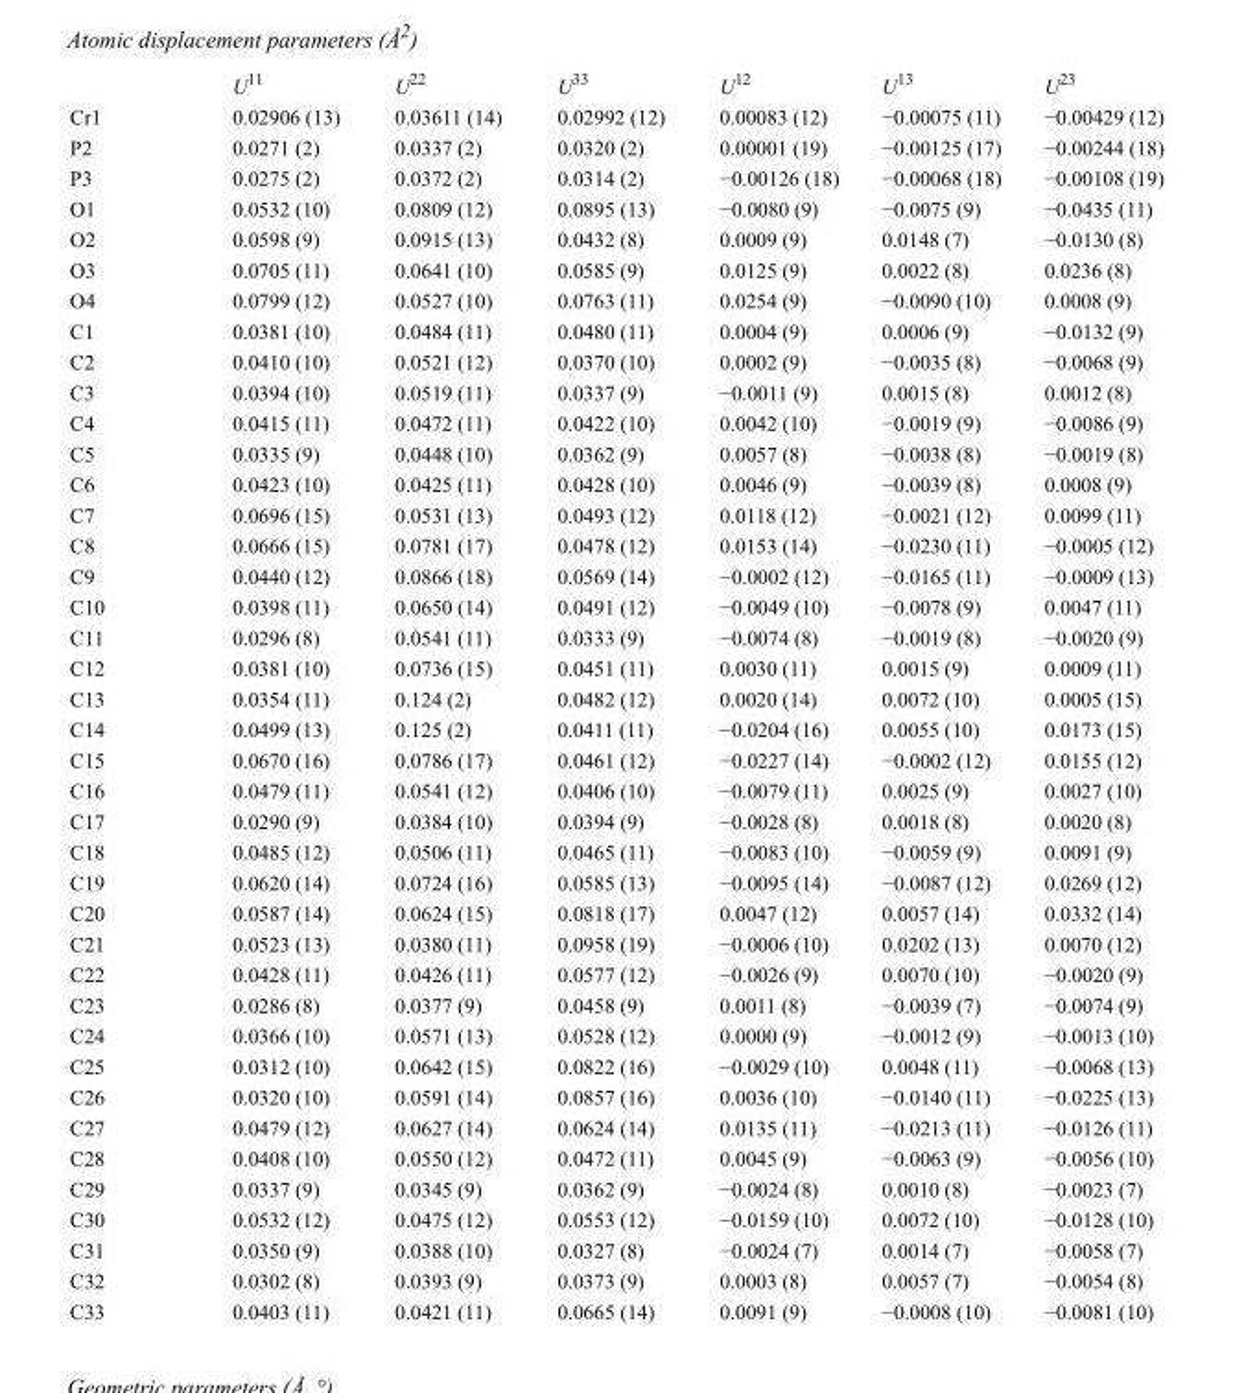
<table><thead><tr><td></td><td>U<sup>11</sup></td><td>U<sup>22</sup></td><td>U<sup>33</sup></td><td>U<sup>12</sup></td><td>U<sup>13</sup></td><td>U<sup>23</sup></td></tr></thead><tbody><tr><td>Cr1</td><td>0.02906 (13)</td><td>0.03611 (14)</td><td>0.02992 (12)</td><td>0.00083 (12)</td><td>−0.00075 (11)</td><td>−0.00429 (12)</td></tr><tr><td>P2</td><td>0.0271 (2)</td><td>0.0337 (2)</td><td>0.0320 (2)</td><td>0.00001 (19)</td><td>−0.00125 (17)</td><td>−0.00244 (18)</td></tr><tr><td>P3</td><td>0.0275 (2)</td><td>0.0372 (2)</td><td>0.0314 (2)</td><td>−0.00126 (18)</td><td>−0.00068 (18)</td><td>−0.00108 (19)</td></tr><tr><td>O1</td><td>0.0532 (10)</td><td>0.0809 (12)</td><td>0.0895 (13)</td><td>−0.0080 (9)</td><td>−0.0075 (9)</td><td>−0.0435 (11)</td></tr><tr><td>O2</td><td>0.0598 (9)</td><td>0.0915 (13)</td><td>0.0432 (8)</td><td>0.0009 (9)</td><td>0.0148 (7)</td><td>−0.0130 (8)</td></tr><tr><td>O3</td><td>0.0705 (11)</td><td>0.0641 (10)</td><td>0.0585 (9)</td><td>0.0125 (9)</td><td>0.0022 (8)</td><td>0.0236 (8)</td></tr><tr><td>O4</td><td>0.0799 (12)</td><td>0.0527 (10)</td><td>0.0763 (11)</td><td>0.0254 (9)</td><td>−0.0090 (10)</td><td>0.0008 (9)</td></tr><tr><td>C1</td><td>0.0381 (10)</td><td>0.0484 (11)</td><td>0.0480 (11)</td><td>0.0004 (9)</td><td>0.0006 (9)</td><td>−0.0132 (9)</td></tr><tr><td>C2</td><td>0.0410 (10)</td><td>0.0521 (12)</td><td>0.0370 (10)</td><td>0.0002 (9)</td><td>−0.0035 (8)</td><td>−0.0068 (9)</td></tr><tr><td>C3</td><td>0.0394 (10)</td><td>0.0519 (11)</td><td>0.0337 (9)</td><td>−0.0011 (9)</td><td>0.0015 (8)</td><td>0.0012 (8)</td></tr><tr><td>C4</td><td>0.0415 (11)</td><td>0.0472 (11)</td><td>0.0422 (10)</td><td>0.0042 (10)</td><td>−0.0019 (9)</td><td>−0.0086 (9)</td></tr><tr><td>C5</td><td>0.0335 (9)</td><td>0.0448 (10)</td><td>0.0362 (9)</td><td>0.0057 (8)</td><td>−0.0038 (8)</td><td>−0.0019 (8)</td></tr><tr><td>C6</td><td>0.0423 (10)</td><td>0.0425 (11)</td><td>0.0428 (10)</td><td>0.0046 (9)</td><td>−0.0039 (8)</td><td>0.0008 (9)</td></tr><tr><td>C7</td><td>0.0696 (15)</td><td>0.0531 (13)</td><td>0.0493 (12)</td><td>0.0118 (12)</td><td>−0.0021 (12)</td><td>0.0099 (11)</td></tr><tr><td>C8</td><td>0.0666 (15)</td><td>0.0781 (17)</td><td>0.0478 (12)</td><td>0.0153 (14)</td><td>−0.0230 (11)</td><td>−0.0005 (12)</td></tr><tr><td>C9</td><td>0.0440 (12)</td><td>0.0866 (18)</td><td>0.0569 (14)</td><td>−0.0002 (12)</td><td>−0.0165 (11)</td><td>−0.0009 (13)</td></tr><tr><td>C10</td><td>0.0398 (11)</td><td>0.0650 (14)</td><td>0.0491 (12)</td><td>−0.0049 (10)</td><td>−0.0078 (9)</td><td>0.0047 (11)</td></tr><tr><td>C11</td><td>0.0296 (8)</td><td>0.0541 (11)</td><td>0.0333 (9)</td><td>−0.0074 (8)</td><td>−0.0019 (8)</td><td>−0.0020 (9)</td></tr><tr><td>C12</td><td>0.0381 (10)</td><td>0.0736 (15)</td><td>0.0451 (11)</td><td>0.0030 (11)</td><td>0.0015 (9)</td><td>0.0009 (11)</td></tr><tr><td>C13</td><td>0.0354 (11)</td><td>0.124 (2)</td><td>0.0482 (12)</td><td>0.0020 (14)</td><td>0.0072 (10)</td><td>0.0005 (15)</td></tr><tr><td>C14</td><td>0.0499 (13)</td><td>0.125 (2)</td><td>0.0411 (11)</td><td>−0.0204 (16)</td><td>0.0055 (10)</td><td>0.0173 (15)</td></tr><tr><td>C15</td><td>0.0670 (16)</td><td>0.0786 (17)</td><td>0.0461 (12)</td><td>−0.0227 (14)</td><td>−0.0002 (12)</td><td>0.0155 (12)</td></tr><tr><td>C16</td><td>0.0479 (11)</td><td>0.0541 (12)</td><td>0.0406 (10)</td><td>−0.0079 (11)</td><td>0.0025 (9)</td><td>0.0027 (10)</td></tr><tr><td>C17</td><td>0.0290 (9)</td><td>0.0384 (10)</td><td>0.0394 (9)</td><td>−0.0028 (8)</td><td>0.0018 (8)</td><td>0.0020 (8)</td></tr><tr><td>C18</td><td>0.0485 (12)</td><td>0.0506 (11)</td><td>0.0465 (11)</td><td>−0.0083 (10)</td><td>−0.0059 (9)</td><td>0.0091 (9)</td></tr><tr><td>C19</td><td>0.0620 (14)</td><td>0.0724 (16)</td><td>0.0585 (13)</td><td>−0.0095 (14)</td><td>−0.0087 (12)</td><td>0.0269 (12)</td></tr><tr><td>C20</td><td>0.0587 (14)</td><td>0.0624 (15)</td><td>0.0818 (17)</td><td>0.0047 (12)</td><td>0.0057 (14)</td><td>0.0332 (14)</td></tr><tr><td>C21</td><td>0.0523 (13)</td><td>0.0380 (11)</td><td>0.0958 (19)</td><td>−0.0006 (10)</td><td>0.0202 (13)</td><td>0.0070 (12)</td></tr><tr><td>C22</td><td>0.0428 (11)</td><td>0.0426 (11)</td><td>0.0577 (12)</td><td>−0.0026 (9)</td><td>0.0070 (10)</td><td>−0.0020 (9)</td></tr><tr><td>C23</td><td>0.0286 (8)</td><td>0.0377 (9)</td><td>0.0458 (9)</td><td>0.0011 (8)</td><td>−0.0039 (7)</td><td>−0.0074 (9)</td></tr><tr><td>C24</td><td>0.0366 (10)</td><td>0.0571 (13)</td><td>0.0528 (12)</td><td>0.0000 (9)</td><td>−0.0012 (9)</td><td>−0.0013 (10)</td></tr><tr><td>C25</td><td>0.0312 (10)</td><td>0.0642 (15)</td><td>0.0822 (16)</td><td>−0.0029 (10)</td><td>0.0048 (11)</td><td>−0.0068 (13)</td></tr><tr><td>C26</td><td>0.0320 (10)</td><td>0.0591 (14)</td><td>0.0857 (16)</td><td>0.0036 (10)</td><td>−0.0140 (11)</td><td>−0.0225 (13)</td></tr><tr><td>C27</td><td>0.0479 (12)</td><td>0.0627 (14)</td><td>0.0624 (14)</td><td>0.0135 (11)</td><td>−0.0213 (11)</td><td>−0.0126 (11)</td></tr><tr><td>C28</td><td>0.0408 (10)</td><td>0.0550 (12)</td><td>0.0472 (11)</td><td>0.0045 (9)</td><td>−0.0063 (9)</td><td>−0.0056 (10)</td></tr><tr><td>C29</td><td>0.0337 (9)</td><td>0.0345 (9)</td><td>0.0362 (9)</td><td>−0.0024 (8)</td><td>0.0010 (8)</td><td>−0.0023 (7)</td></tr><tr><td>C30</td><td>0.0532 (12)</td><td>0.0475 (12)</td><td>0.0553 (12)</td><td>−0.0159 (10)</td><td>0.0072 (10)</td><td>−0.0128 (10)</td></tr><tr><td>C31</td><td>0.0350 (9)</td><td>0.0388 (10)</td><td>0.0327 (8)</td><td>−0.0024 (7)</td><td>0.0014 (7)</td><td>−0.0058 (7)</td></tr><tr><td>C32</td><td>0.0302 (8)</td><td>0.0393 (9)</td><td>0.0373 (9)</td><td>0.0003 (8)</td><td>0.0057 (7)</td><td>−0.0054 (8)</td></tr><tr><td>C33</td><td>0.0403 (11)</td><td>0.0421 (11)</td><td>0.0665 (14)</td><td>0.0091 (9)</td><td>−0.0008 (10)</td><td>−0.0081 (10)</td></tr></tbody></table>